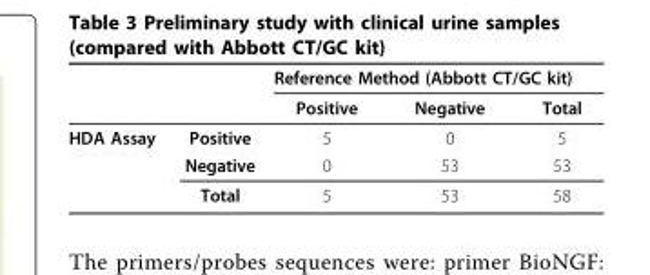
<table><thead><tr><td rowspan="2"></td><td rowspan="2"></td><td colspan="3">Reference Method (Abbott CT/GC kit)</td></tr><tr><td>Positive</td><td>Negative</td><td>Total</td></tr></thead><tbody><tr><td rowspan="3">HDA Assay</td><td>Positive</td><td>5</td><td>0</td><td>5</td></tr><tr><td>Negative</td><td>0</td><td>53</td><td>53</td></tr><tr><td>Total</td><td>5</td><td>53</td><td>58</td></tr></tbody></table>